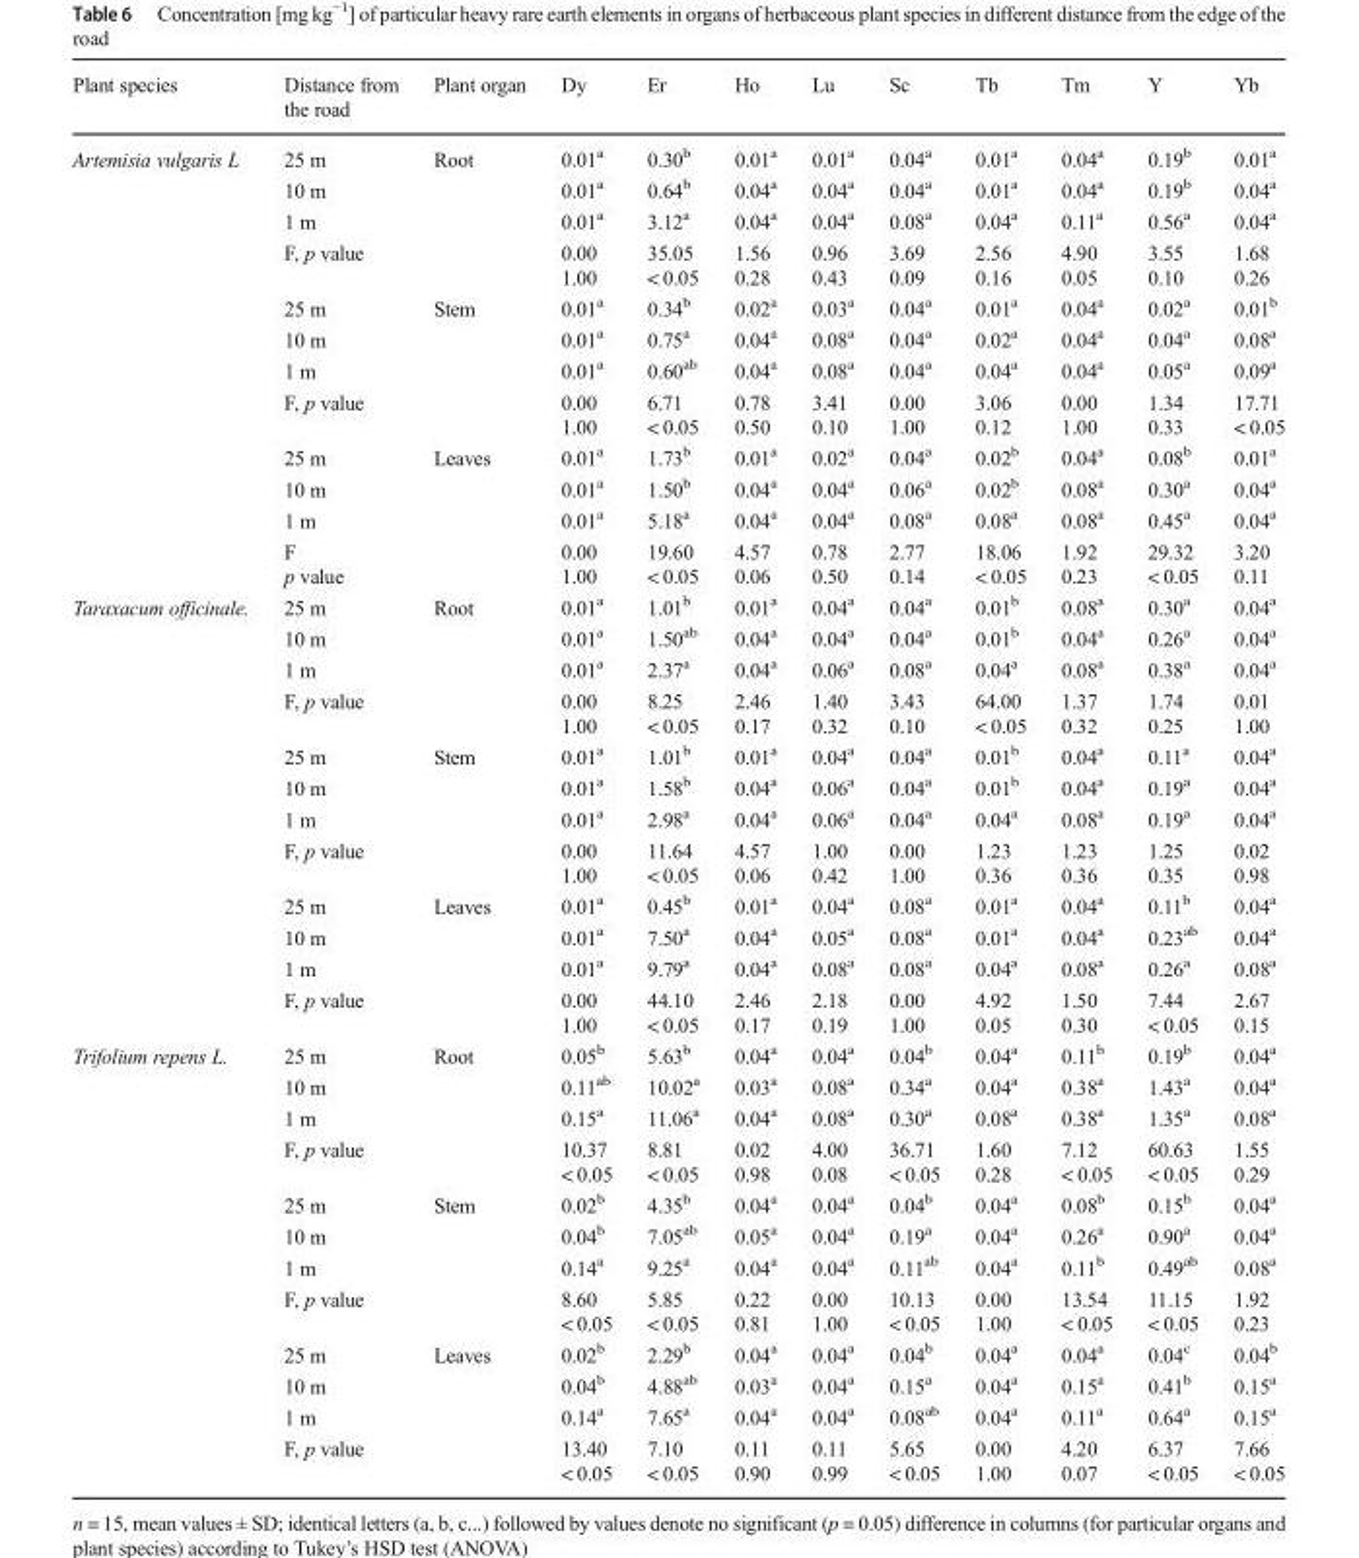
<table><thead><tr><td>Plant species</td><td>Distance from the road</td><td>Plant organ</td><td>Dy</td><td>Er</td><td>Ho</td><td>Lu</td><td>Sc</td><td>Tb</td><td>Tm</td><td>Y</td><td>Yb</td></tr></thead><tbody><tr><td rowspan="12">Artemisia vulgaris L</td><td>25 m</td><td rowspan="3">Root</td><td>0.01<sup>a</sup></td><td>0.30<sup>b</sup></td><td>0.01<sup>a</sup></td><td>0.01<sup>a</sup></td><td>0.04<sup>a</sup></td><td>0.01<sup>a</sup></td><td>0.04<sup>a</sup></td><td>0.19<sup>b</sup></td><td>0.01<sup>a</sup></td></tr><tr><td>10 m</td><td>0.01<sup>a</sup></td><td>0.64<sup>b</sup></td><td>0.04<sup>a</sup></td><td>0.04<sup>a</sup></td><td>0.04<sup>a</sup></td><td>0.01<sup>a</sup></td><td>0.04<sup>a</sup></td><td>0.19<sup>b</sup></td><td>0.04<sup>a</sup></td></tr><tr><td>1 m</td><td>0.01<sup>a</sup></td><td>3.12<sup>a</sup></td><td>0.04<sup>a</sup></td><td>0.04<sup>a</sup></td><td>0.08<sup>a</sup></td><td>0.04<sup>a</sup></td><td>0.11<sup>a</sup></td><td>0.56<sup>a</sup></td><td>0.04<sup>a</sup></td></tr><tr><td colspan="2">F, p value</td><td>0.00 1.00</td><td>35.05 &lt; 0.05</td><td>1.56 0.28</td><td>0.96 0.43</td><td>3.69 0.09</td><td>2.56 0.16</td><td>4.90 0.05</td><td>3.55 0.10</td><td>1.68 0.26</td></tr><tr><td>25 m</td><td rowspan="3">Stem</td><td>0.01<sup>a</sup></td><td>0.34<sup>b</sup></td><td>0.02<sup>a</sup></td><td>0.03<sup>a</sup></td><td>0.04<sup>a</sup></td><td>0.01<sup>a</sup></td><td>0.04<sup>a</sup></td><td>0.02<sup>a</sup></td><td>0.01<sup>b</sup></td></tr><tr><td>10 m</td><td>0.01<sup>a</sup></td><td>0.75<sup>a</sup></td><td>0.04<sup>a</sup></td><td>0.08<sup>a</sup></td><td>0.04<sup>a</sup></td><td>0.02<sup>a</sup></td><td>0.04<sup>a</sup></td><td>0.04<sup>a</sup></td><td>0.08<sup>a</sup></td></tr><tr><td>1 m</td><td>0.01<sup>a</sup></td><td>0.60<sup>ab</sup></td><td>0.04<sup>a</sup></td><td>0.08<sup>a</sup></td><td>0.04<sup>a</sup></td><td>0.04<sup>a</sup></td><td>0.04<sup>a</sup></td><td>0.05<sup>a</sup></td><td>0.09<sup>a</sup></td></tr><tr><td colspan="2">F, p value</td><td>0.00 1.00</td><td>6.71 &lt; 0.05</td><td>0.78 0.50</td><td>3.41 0.10</td><td>0.00 1.00</td><td>3.06 0.12</td><td>0.00 1.00</td><td>1.34 0.33</td><td>17.71 &lt; 0.05</td></tr><tr><td>25 m</td><td rowspan="3">Leaves</td><td>0.01<sup>a</sup></td><td>1.73<sup>b</sup></td><td>0.01<sup>a</sup></td><td>0.02<sup>a</sup></td><td>0.04<sup>a</sup></td><td>0.02<sup>b</sup></td><td>0.04<sup>a</sup></td><td>0.08<sup>b</sup></td><td>0.01<sup>a</sup></td></tr><tr><td>10 m</td><td>0.01<sup>a</sup></td><td>1.50<sup>b</sup></td><td>0.04<sup>a</sup></td><td>0.04<sup>a</sup></td><td>0.06<sup>a</sup></td><td>0.02<sup>b</sup></td><td>0.08<sup>a</sup></td><td>0.30<sup>a</sup></td><td>0.04<sup>a</sup></td></tr><tr><td>1 m</td><td>0.01<sup>a</sup></td><td>5.18<sup>a</sup></td><td>0.04<sup>a</sup></td><td>0.04<sup>a</sup></td><td>0.08<sup>a</sup></td><td>0.08<sup>a</sup></td><td>0.08<sup>a</sup></td><td>0.45<sup>a</sup></td><td>0.04<sup>a</sup></td></tr><tr><td colspan="2">F p value</td><td>0.00 1.00</td><td>19.60 &lt; 0.05</td><td>4.57 0.06</td><td>0.78 0.50</td><td>2.77 0.14</td><td>18.06 &lt; 0.05</td><td>1.92 0.23</td><td>29.32 &lt; 0.05</td><td>3.20 0.11</td></tr><tr><td rowspan="12">Taraxacum officinale.</td><td>25 m</td><td rowspan="3">Root</td><td>0.01<sup>a</sup></td><td>1.01<sup>b</sup></td><td>0.01<sup>a</sup></td><td>0.04<sup>a</sup></td><td>0.04<sup>a</sup></td><td>0.01<sup>b</sup></td><td>0.08<sup>a</sup></td><td>0.30<sup>a</sup></td><td>0.04<sup>a</sup></td></tr><tr><td>10 m</td><td>0.01<sup>a</sup></td><td>1.50<sup>ab</sup></td><td>0.04<sup>a</sup></td><td>0.04<sup>a</sup></td><td>0.04<sup>a</sup></td><td>0.01<sup>b</sup></td><td>0.04<sup>a</sup></td><td>0.26<sup>a</sup></td><td>0.04<sup>a</sup></td></tr><tr><td>1 m</td><td>0.01<sup>a</sup></td><td>2.37<sup>a</sup></td><td>0.04<sup>a</sup></td><td>0.06<sup>a</sup></td><td>0.08<sup>a</sup></td><td>0.04<sup>a</sup></td><td>0.08<sup>a</sup></td><td>0.38<sup>a</sup></td><td>0.04<sup>a</sup></td></tr><tr><td colspan="2">F, p value</td><td>0.00 1.00</td><td>8.25 &lt; 0.05</td><td>2.46 0.17</td><td>1.40 0.32</td><td>3.43 0.10</td><td>64.00 &lt; 0.05</td><td>1.37 0.32</td><td>1.74 0.25</td><td>0.01 1.00</td></tr><tr><td>25 m</td><td rowspan="3">Stem</td><td>0.01<sup>a</sup></td><td>1.01<sup>b</sup></td><td>0.01<sup>a</sup></td><td>0.04<sup>a</sup></td><td>0.04<sup>a</sup></td><td>0.01<sup>b</sup></td><td>0.04<sup>a</sup></td><td>0.11<sup>a</sup></td><td>0.04<sup>a</sup></td></tr><tr><td>10 m</td><td>0.01<sup>a</sup></td><td>1.58<sup>b</sup></td><td>0.04<sup>a</sup></td><td>0.06<sup>a</sup></td><td>0.04<sup>a</sup></td><td>0.01<sup>b</sup></td><td>0.04<sup>a</sup></td><td>0.19<sup>a</sup></td><td>0.04<sup>a</sup></td></tr><tr><td>1 m</td><td>0.01<sup>a</sup></td><td>2.98<sup>a</sup></td><td>0.04<sup>a</sup></td><td>0.06<sup>a</sup></td><td>0.04<sup>a</sup></td><td>0.04<sup>a</sup></td><td>0.08<sup>a</sup></td><td>0.19<sup>a</sup></td><td>0.04<sup>a</sup></td></tr><tr><td colspan="2">F, p value</td><td>0.00 1.00</td><td>11.64 &lt; 0.05</td><td>4.57 0.06</td><td>1.00 0.42</td><td>0.00 1.00</td><td>1.23 0.36</td><td>1.23 0.36</td><td>1.25 0.35</td><td>0.02 0.98</td></tr><tr><td>25 m</td><td rowspan="3">Leaves</td><td>0.01<sup>a</sup></td><td>0.45<sup>b</sup></td><td>0.01<sup>a</sup></td><td>0.04<sup>a</sup></td><td>0.08<sup>a</sup></td><td>0.01<sup>a</sup></td><td>0.04<sup>a</sup></td><td>0.11<sup>b</sup></td><td>0.04<sup>a</sup></td></tr><tr><td>10 m</td><td>0.01<sup>a</sup></td><td>7.50<sup>a</sup></td><td>0.04<sup>a</sup></td><td>0.05<sup>a</sup></td><td>0.08<sup>a</sup></td><td>0.01<sup>a</sup></td><td>0.04<sup>a</sup></td><td>0.23<sup>ab</sup></td><td>0.04<sup>a</sup></td></tr><tr><td>1 m</td><td>0.01<sup>a</sup></td><td>9.79<sup>a</sup></td><td>0.04<sup>a</sup></td><td>0.08<sup>a</sup></td><td>0.08<sup>a</sup></td><td>0.04<sup>a</sup></td><td>0.08<sup>a</sup></td><td>0.26<sup>a</sup></td><td>0.08<sup>a</sup></td></tr><tr><td colspan="2">F, p value</td><td>0.00 1.00</td><td>44.10 &lt; 0.05</td><td>2.46 0.17</td><td>2.18 0.19</td><td>0.00 1.00</td><td>4.92 0.05</td><td>1.50 0.30</td><td>7.44 &lt; 0.05</td><td>2.67 0.15</td></tr><tr><td rowspan="12">Trifolium repens L.</td><td>25 m</td><td rowspan="3">Root</td><td>0.05<sup>b</sup></td><td>5.63<sup>b</sup></td><td>0.04<sup>a</sup></td><td>0.04<sup>a</sup></td><td>0.04<sup>b</sup></td><td>0.04<sup>a</sup></td><td>0.11<sup>b</sup></td><td>0.19<sup>b</sup></td><td>0.04<sup>a</sup></td></tr><tr><td>10 m</td><td>0.11<sup>ab</sup></td><td>10.02<sup>a</sup></td><td>0.03<sup>a</sup></td><td>0.08<sup>a</sup></td><td>0.34<sup>a</sup></td><td>0.04<sup>a</sup></td><td>0.38<sup>a</sup></td><td>1.43<sup>a</sup></td><td>0.04<sup>a</sup></td></tr><tr><td>1 m</td><td>0.15<sup>a</sup></td><td>11.06<sup>a</sup></td><td>0.04<sup>a</sup></td><td>0.08<sup>a</sup></td><td>0.30<sup>a</sup></td><td>0.08<sup>a</sup></td><td>0.38<sup>a</sup></td><td>1.35<sup>a</sup></td><td>0.08<sup>a</sup></td></tr><tr><td colspan="2">F, p value</td><td>10.37 &lt; 0.05</td><td>8.81 &lt; 0.05</td><td>0.02 0.98</td><td>4.00 0.08</td><td>36.71 &lt; 0.05</td><td>1.60 0.28</td><td>7.12 &lt; 0.05</td><td>60.63 &lt; 0.05</td><td>1.55 0.29</td></tr><tr><td>25 m</td><td rowspan="3">Stem</td><td>0.02<sup>b</sup></td><td>4.35<sup>b</sup></td><td>0.04<sup>a</sup></td><td>0.04<sup>a</sup></td><td>0.04<sup>b</sup></td><td>0.04<sup>a</sup></td><td>0.08<sup>b</sup></td><td>0.15<sup>b</sup></td><td>0.04<sup>a</sup></td></tr><tr><td>10 m</td><td>0.04<sup>b</sup></td><td>7.05<sup>ab</sup></td><td>0.05<sup>a</sup></td><td>0.04<sup>a</sup></td><td>0.19<sup>a</sup></td><td>0.04<sup>a</sup></td><td>0.26<sup>a</sup></td><td>0.90<sup>a</sup></td><td>0.04<sup>a</sup></td></tr><tr><td>1 m</td><td>0.14<sup>a</sup></td><td>9.25<sup>a</sup></td><td>0.04<sup>a</sup></td><td>0.04<sup>a</sup></td><td>0.11<sup>ab</sup></td><td>0.04<sup>a</sup></td><td>0.11<sup>b</sup></td><td>0.49<sup>ab</sup></td><td>0.08<sup>a</sup></td></tr><tr><td colspan="2">F, p value</td><td>8.60 &lt; 0.05</td><td>5.85 &lt; 0.05</td><td>0.22 0.81</td><td>0.00 1.00</td><td>10.13 &lt; 0.05</td><td>0.00 1.00</td><td>13.54 &lt; 0.05</td><td>11.15 &lt; 0.05</td><td>1.92 0.23</td></tr><tr><td>25 m</td><td rowspan="3">Leaves</td><td>0.02<sup>b</sup></td><td>2.29<sup>b</sup></td><td>0.04<sup>a</sup></td><td>0.04<sup>a</sup></td><td>0.04<sup>b</sup></td><td>0.04<sup>a</sup></td><td>0.04<sup>a</sup></td><td>0.04<sup>c</sup></td><td>0.04<sup>b</sup></td></tr><tr><td>10 m</td><td>0.04<sup>b</sup></td><td>4.88<sup>ab</sup></td><td>0.03<sup>a</sup></td><td>0.04<sup>a</sup></td><td>0.15<sup>a</sup></td><td>0.04<sup>a</sup></td><td>0.15<sup>a</sup></td><td>0.41<sup>b</sup></td><td>0.15<sup>a</sup></td></tr><tr><td>1 m</td><td>0.14<sup>a</sup></td><td>7.65<sup>a</sup></td><td>0.04<sup>a</sup></td><td>0.04<sup>a</sup></td><td>0.08<sup>ab</sup></td><td>0.04<sup>a</sup></td><td>0.11<sup>a</sup></td><td>0.64<sup>a</sup></td><td>0.15<sup>a</sup></td></tr><tr><td colspan="2">F, p value</td><td>13.40 &lt; 0.05</td><td>7.10 &lt; 0.05</td><td>0.11 0.90</td><td>0.11 0.99</td><td>5.65 &lt; 0.05</td><td>0.00 1.00</td><td>4.20 0.07</td><td>6.37 &lt; 0.05</td><td>7.66 &lt; 0.05</td></tr></tbody></table>